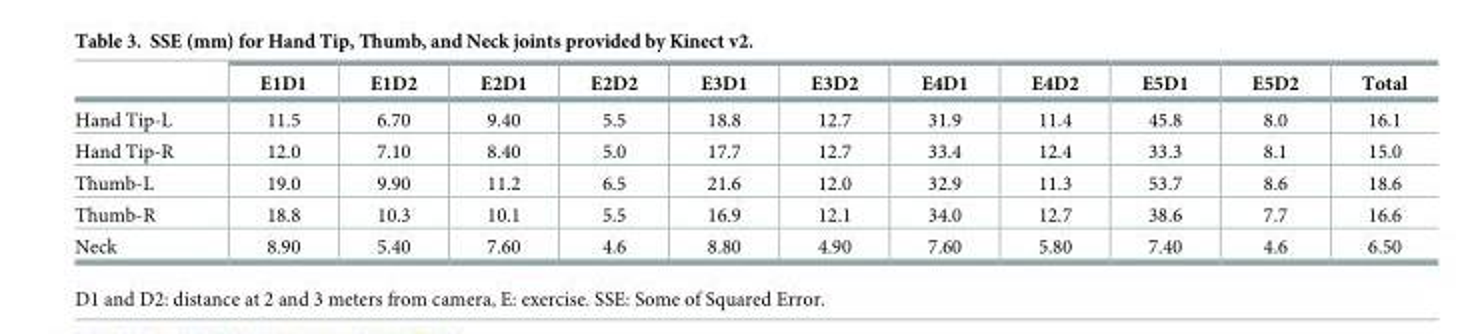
<table><thead><tr><td></td><td>E1D1</td><td>E1D2</td><td>E2D1</td><td>E2D2</td><td>E3D1</td><td>E3D2</td><td>E4D1</td><td>E4D2</td><td>E5D1</td><td>E5D2</td><td>Total</td></tr></thead><tbody><tr><td>Hand Tip-L</td><td>11.5</td><td>6.70</td><td>9.40</td><td>5.5</td><td>18.8</td><td>12.7</td><td>31.9</td><td>11.4</td><td>45.8</td><td>8.0</td><td>16.1</td></tr><tr><td>Hand Tip-R</td><td>12.0</td><td>7.10</td><td>8.40</td><td>5.0</td><td>17.7</td><td>12.7</td><td>33.4</td><td>12.4</td><td>33.3</td><td>8.1</td><td>15.0</td></tr><tr><td>Thumb-L</td><td>19.0</td><td>9.90</td><td>11.2</td><td>6.5</td><td>21.6</td><td>12.0</td><td>32.9</td><td>11.3</td><td>53.7</td><td>8.6</td><td>18.6</td></tr><tr><td>Thumb-R</td><td>18.8</td><td>10.3</td><td>10.1</td><td>5.5</td><td>16.9</td><td>12.1</td><td>34.0</td><td>12.7</td><td>38.6</td><td>7.7</td><td>16.6</td></tr><tr><td>Neck</td><td>8.90</td><td>5.40</td><td>7.60</td><td>4.6</td><td>8.80</td><td>4.90</td><td>7.60</td><td>5.80</td><td>7.40</td><td>4.6</td><td>6.50</td></tr></tbody></table>